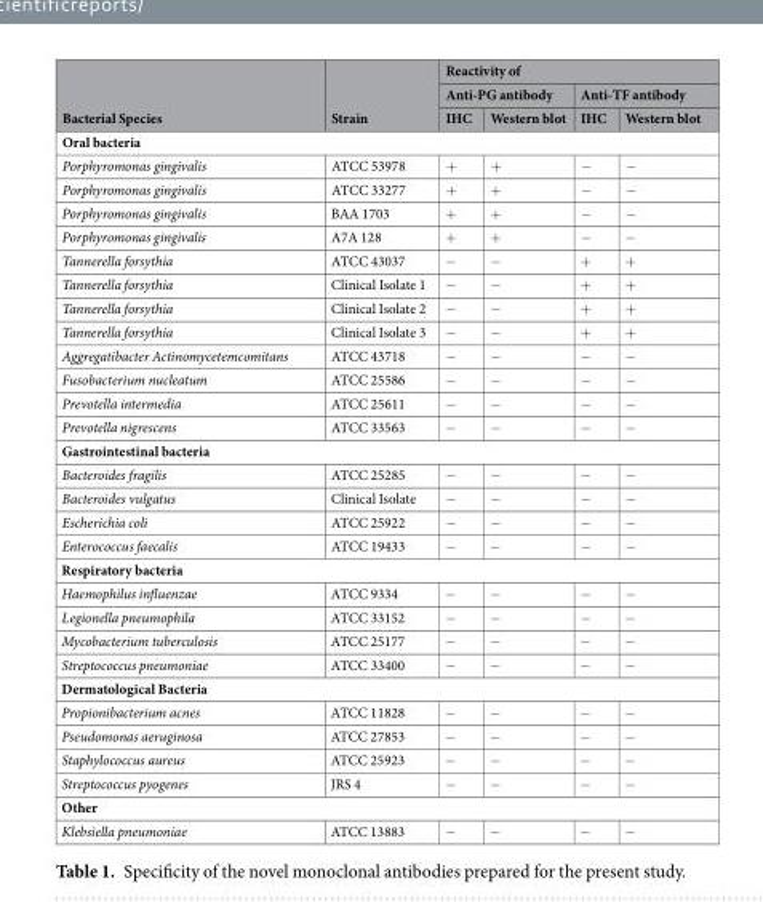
<table><thead><tr><td rowspan="3">Bacterial Species</td><td rowspan="3">Strain</td><td colspan="4">Reactivity of</td></tr><tr><td colspan="2">Anti-PG antibody</td><td colspan="2">Anti-TF antibody</td></tr><tr><td>IHC</td><td>Western blot</td><td>IHC</td><td>Western blot</td></tr></thead><tbody><tr><td colspan="6">Oral bacteria</td></tr><tr><td>Porphyromonas gingivalis</td><td>ATCC 53978</td><td>+</td><td>+</td><td>−</td><td>−</td></tr><tr><td>Porphyromonas gingivalis</td><td>ATCC 33277</td><td>+</td><td>+</td><td>−</td><td>−</td></tr><tr><td>Porphyromonas gingivalis</td><td>BAA 1703</td><td>+</td><td>+</td><td>−</td><td>−</td></tr><tr><td>Porphyromonas gingivalis</td><td>A7A 128</td><td>+</td><td>+</td><td>−</td><td>−</td></tr><tr><td>Tannerella forsythia</td><td>ATCC 43037</td><td>−</td><td>−</td><td>+</td><td>+</td></tr><tr><td>Tannerella forsythia</td><td>Clinical Isolate 1</td><td>−</td><td>−</td><td>+</td><td>+</td></tr><tr><td>Tannerella forsythia</td><td>Clinical Isolate 2</td><td>−</td><td>−</td><td>+</td><td>+</td></tr><tr><td>Tannerella forsythia</td><td>Clinical Isolate 3</td><td>−</td><td>−</td><td>+</td><td>+</td></tr><tr><td>Aggregatibacter Actinomycetemcomitans</td><td>ATCC 43718</td><td>−</td><td>−</td><td>−</td><td>−</td></tr><tr><td>Fusobacterium nucleatum</td><td>ATCC 25586</td><td>−</td><td>−</td><td>−</td><td>−</td></tr><tr><td>Prevotella intermedia</td><td>ATCC 25611</td><td>−</td><td>−</td><td>−</td><td>−</td></tr><tr><td>Prevotella nigrescens</td><td>ATCC 33563</td><td>−</td><td>−</td><td>−</td><td>−</td></tr><tr><td colspan="6">Gastrointestinal bacteria</td></tr><tr><td>Bacteroides fragilis</td><td>ATCC 25285</td><td>−</td><td>−</td><td>−</td><td>−</td></tr><tr><td>Bacteroides vulgatus</td><td>Clinical Isolate</td><td>−</td><td>−</td><td>−</td><td>−</td></tr><tr><td>Escherichia coli</td><td>ATCC 25922</td><td>−</td><td>−</td><td>−</td><td>−</td></tr><tr><td>Enterococcus faecalis</td><td>ATCC 19433</td><td>−</td><td>−</td><td>−</td><td>−</td></tr><tr><td colspan="6">Respiratory bacteria</td></tr><tr><td>Haemophilus influenzae</td><td>ATCC 9334</td><td>−</td><td>−</td><td>−</td><td>−</td></tr><tr><td>Legionella pneumophila</td><td>ATCC 33152</td><td>−</td><td>−</td><td>−</td><td>−</td></tr><tr><td>Mycobacterium tuberculosis</td><td>ATCC 25177</td><td>−</td><td>−</td><td>−</td><td>−</td></tr><tr><td>Streptococcus pneumoniae</td><td>ATCC 33400</td><td>−</td><td>−</td><td>−</td><td>−</td></tr><tr><td colspan="6">Dermatological Bacteria</td></tr><tr><td>Propionibacterium acnes</td><td>ATCC 11828</td><td>−</td><td>−</td><td>−</td><td>−</td></tr><tr><td>Pseudomonas aeruginosa</td><td>ATCC 27853</td><td>−</td><td>−</td><td>−</td><td>−</td></tr><tr><td>Staphylococcus aureus</td><td>ATCC 25923</td><td>−</td><td>−</td><td>−</td><td>−</td></tr><tr><td>Streptococcus pyogenes</td><td>JRS 4</td><td>−</td><td>−</td><td>−</td><td>−</td></tr><tr><td colspan="6">Other</td></tr><tr><td>Klebsiella pneumoniae</td><td>ATCC 13883</td><td>−</td><td>−</td><td>−</td><td>−</td></tr></tbody></table>